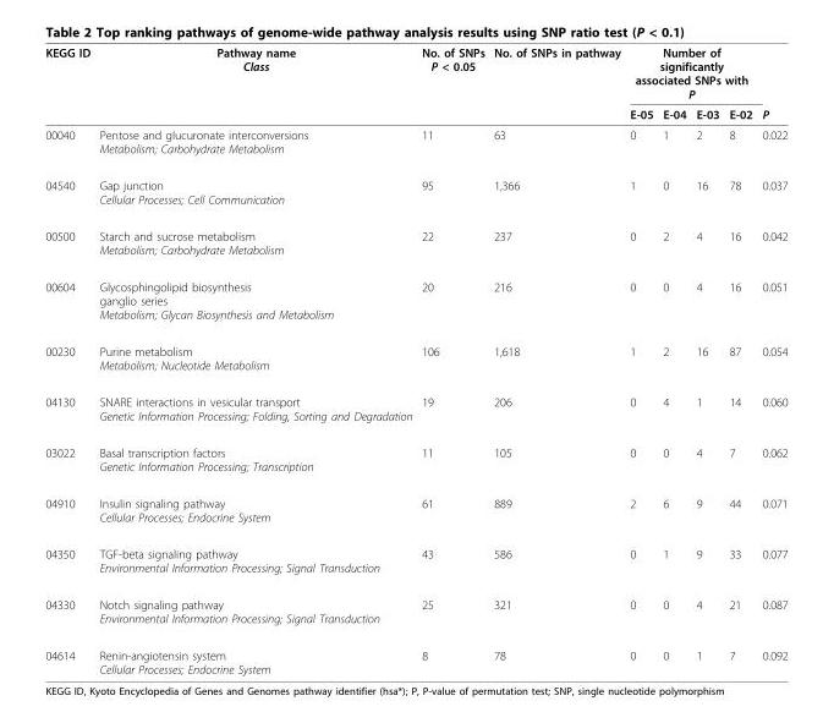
<table><thead><tr><td rowspan="2">KEGG ID</td><td rowspan="2">Pathway name Class</td><td rowspan="2">No. of SNPs P &lt; 0.05</td><td rowspan="2">No. of SNPs in pathway</td><td colspan="4">Number of significantly associated SNPs with P</td><td rowspan="2">P</td></tr><tr><td>E-05</td><td>E-04</td><td>E-03</td><td>E-02</td></tr></thead><tbody><tr><td>00040</td><td>Pentose and glucuronate interconversions Metabolism; Carbohydrate Metabolism</td><td>11</td><td>63</td><td>0</td><td>1</td><td>2</td><td>8</td><td>0.022</td></tr><tr><td>04540</td><td>Gap junction Cellular Processes; Cell Communication</td><td>95</td><td>1,366</td><td>1</td><td>0</td><td>16</td><td>78</td><td>0.037</td></tr><tr><td>00500</td><td>Starch and sucrose metabolism Metabolism; Carbohydrate Metabolism</td><td>22</td><td>237</td><td>0</td><td>2</td><td>4</td><td>16</td><td>0.042</td></tr><tr><td>00604</td><td>Glycosphingolipid biosynthesis ganglio series Metabolism; Glycan Biosynthesis and Metabolism</td><td>20</td><td>216</td><td>0</td><td>0</td><td>4</td><td>16</td><td>0.051</td></tr><tr><td>00230</td><td>Purine metabolism Metabolism; Nucleotide Metabolism</td><td>106</td><td>1,618</td><td>1</td><td>2</td><td>16</td><td>87</td><td>0.054</td></tr><tr><td>04130</td><td>SNARE interactions in vesicular transport Genetic Information Processing; Folding, Sorting and Degradation</td><td>19</td><td>206</td><td>0</td><td>4</td><td>1</td><td>14</td><td>0.060</td></tr><tr><td>03022</td><td>Basal transcription factors Genetic Information Processing; Transcription</td><td>11</td><td>105</td><td>0</td><td>0</td><td>4</td><td>7</td><td>0.062</td></tr><tr><td>04910</td><td>Insulin signaling pathway Cellular Processes; Endocrine System</td><td>61</td><td>889</td><td>2</td><td>6</td><td>9</td><td>44</td><td>0.071</td></tr><tr><td>04350</td><td>TGF-beta signaling pathway Environmental Information Processing; Signal Transduction</td><td>43</td><td>586</td><td>0</td><td>1</td><td>9</td><td>33</td><td>0.077</td></tr><tr><td>04330</td><td>Notch signaling pathway Environmental Information Processing; Signal Transduction</td><td>25</td><td>321</td><td>0</td><td>0</td><td>4</td><td>21</td><td>0.087</td></tr><tr><td>04614</td><td>Renin-angiotensin system Cellular Processes; Endocrine System</td><td>8</td><td>78</td><td>0</td><td>0</td><td>1</td><td>7</td><td>0.092</td></tr></tbody></table>